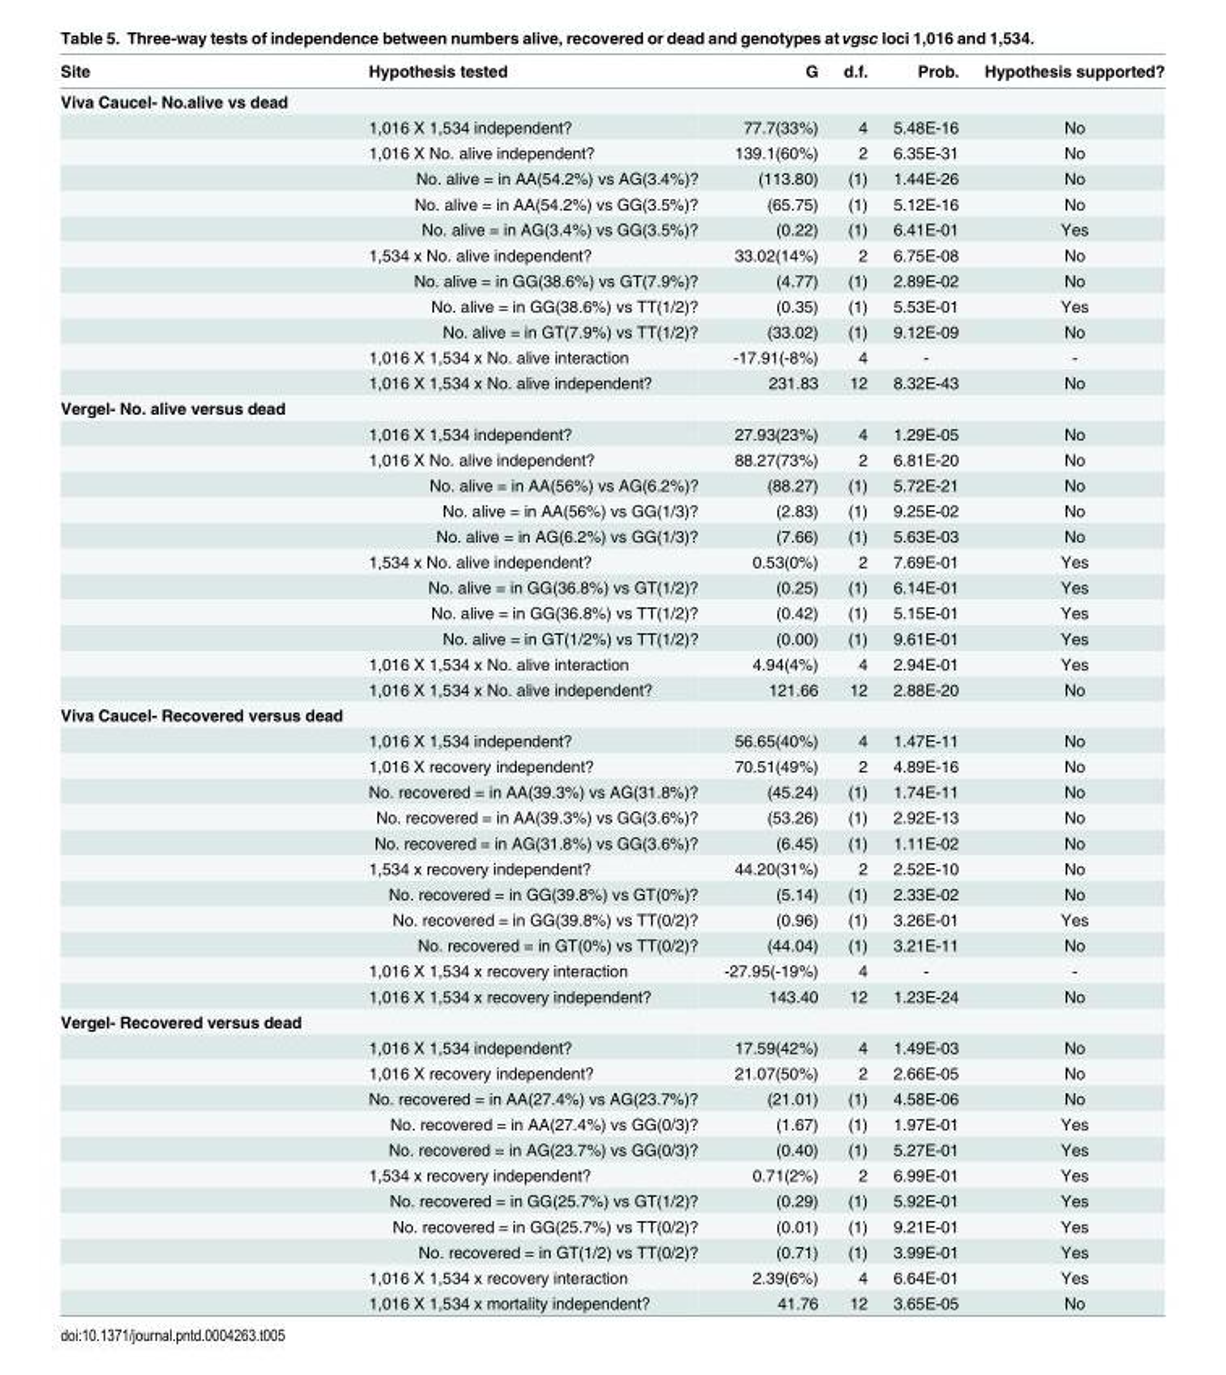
<table><thead><tr><td>Site</td><td>Hypothesis tested</td><td>G</td><td>d.f.</td><td>Prob.</td><td>Hypothesis supported?</td></tr></thead><tbody><tr><td colspan="6">Viva Caucel- No.alive vs dead</td></tr><tr><td></td><td>1,016 X 1,534 independent?</td><td>77.7(33%)</td><td>4</td><td>5.48E-16</td><td>No</td></tr><tr><td></td><td>1,016 X No. alive independent?</td><td>139.1(60%)</td><td>2</td><td>6.35E-31</td><td>No</td></tr><tr><td></td><td>No. alive = in AA(54.2%) vs AG(3.4%)?</td><td>(113.80)</td><td>(1)</td><td>1.44E-26</td><td>No</td></tr><tr><td></td><td>No. alive = in AA(54.2%) vs GG(3.5%)?</td><td>(65.75)</td><td>(1)</td><td>5.12E-16</td><td>No</td></tr><tr><td></td><td>No. alive = in AG(3.4%) vs GG(3.5%)?</td><td>(0.22)</td><td>(1)</td><td>6.41E-01</td><td>Yes</td></tr><tr><td></td><td>1,534 x No. alive independent?</td><td>33.02(14%)</td><td>2</td><td>6.75E-08</td><td>No</td></tr><tr><td></td><td>No. alive = in GG(38.6%) vs GT(7.9%)?</td><td>(4.77)</td><td>(1)</td><td>2.89E-02</td><td>No</td></tr><tr><td></td><td>No. alive = in GG(38.6%) vs TT(1/2)?</td><td>(0.35)</td><td>(1)</td><td>5.53E-01</td><td>Yes</td></tr><tr><td></td><td>No. alive = in GT(7.9%) vs TT(1/2)?</td><td>(33.02)</td><td>(1)</td><td>9.12E-09</td><td>No</td></tr><tr><td></td><td>1,016 X 1,534 x No. alive interaction</td><td>-17.91(-8%)</td><td>4</td><td>-</td><td>-</td></tr><tr><td></td><td>1,016 X 1,534 x No. alive independent?</td><td>231.83</td><td>12</td><td>8.32E-43</td><td>No</td></tr><tr><td colspan="6">Vergel- No. alive versus dead</td></tr><tr><td></td><td>1,016 X 1,534 independent?</td><td>27.93(23%)</td><td>4</td><td>1.29E-05</td><td>No</td></tr><tr><td></td><td>1,016 X No. alive independent?</td><td>88.27(73%)</td><td>2</td><td>6.81E-20</td><td>No</td></tr><tr><td></td><td>No. alive = in AA(56%) vs AG(6.2%)?</td><td>(88.27)</td><td>(1)</td><td>5.72E-21</td><td>No</td></tr><tr><td></td><td>No. alive = in AA(56%) vs GG(1/3)?</td><td>(2.83)</td><td>(1)</td><td>9.25E-02</td><td>No</td></tr><tr><td></td><td>No. alive = in AG(6.2%) vs GG(1/3)?</td><td>(7.66)</td><td>(1)</td><td>5.63E-03</td><td>No</td></tr><tr><td></td><td>1,534 x No. alive independent?</td><td>0.53(0%)</td><td>2</td><td>7.69E-01</td><td>Yes</td></tr><tr><td></td><td>No. alive = in GG(36.8%) vs GT(1/2)?</td><td>(0.25)</td><td>(1)</td><td>6.14E-01</td><td>Yes</td></tr><tr><td></td><td>No. alive = in GG(36.8%) vs TT(1/2)?</td><td>(0.42)</td><td>(1)</td><td>5.15E-01</td><td>Yes</td></tr><tr><td></td><td>No. alive = in GT(1/2%) vs TT(1/2)?</td><td>(0.00)</td><td>(1)</td><td>9.61E-01</td><td>Yes</td></tr><tr><td></td><td>1,016 X 1,534 x No. alive interaction</td><td>4.94(4%)</td><td>4</td><td>2.94E-01</td><td>Yes</td></tr><tr><td></td><td>1,016 X 1,534 x No. alive independent?</td><td>121.66</td><td>12</td><td>2.88E-20</td><td>No</td></tr><tr><td colspan="6">Viva Caucel- Recovered versus dead</td></tr><tr><td></td><td>1,016 X 1,534 independent?</td><td>56.65(40%)</td><td>4</td><td>1.47E-11</td><td>No</td></tr><tr><td></td><td>1,016 X recovery independent?</td><td>70.51(49%)</td><td>2</td><td>4.89E-16</td><td>No</td></tr><tr><td></td><td>No. recovered = in AA(39.3%) vs AG(31.8%)?</td><td>(45.24)</td><td>(1)</td><td>1.74E-11</td><td>No</td></tr><tr><td></td><td>No. recovered = in AA(39.3%) vs GG(3.6%)?</td><td>(53.26)</td><td>(1)</td><td>2.92E-13</td><td>No</td></tr><tr><td></td><td>No. recovered = in AG(31.8%) vs GG(3.6%)?</td><td>(6.45)</td><td>(1)</td><td>1.11E-02</td><td>No</td></tr><tr><td></td><td>1,534 x recovery independent?</td><td>44.20(31%)</td><td>2</td><td>2.52E-10</td><td>No</td></tr><tr><td></td><td>No. recovered = in GG(39.8%) vs GT(0%)?</td><td>(5.14)</td><td>(1)</td><td>2.33E-02</td><td>No</td></tr><tr><td></td><td>No. recovered = in GG(39.8%) vs TT(0/2)?</td><td>(0.96)</td><td>(1)</td><td>3.26E-01</td><td>Yes</td></tr><tr><td></td><td>No. recovered = in GT(0%) vs TT(0/2)?</td><td>(44.04)</td><td>(1)</td><td>3.21E-11</td><td>No</td></tr><tr><td></td><td>1,016 X 1,534 x recovery interaction</td><td>-27.95(-19%)</td><td>4</td><td>-</td><td>-</td></tr><tr><td></td><td>1,016 X 1,534 x recovery independent?</td><td>143.40</td><td>12</td><td>1.23E-24</td><td>No</td></tr><tr><td colspan="6">Vergel- Recovered versus dead</td></tr><tr><td></td><td>1,016 X 1,534 independent?</td><td>17.59(42%)</td><td>4</td><td>1.49E-03</td><td>No</td></tr><tr><td></td><td>1,016 X recovery independent?</td><td>21.07(50%)</td><td>2</td><td>2.66E-05</td><td>No</td></tr><tr><td></td><td>No. recovered = in AA(27.4%) vs AG(23.7%)?</td><td>(21.01)</td><td>(1)</td><td>4.58E-06</td><td>No</td></tr><tr><td></td><td>No. recovered = in AA(27.4%) vs GG(0/3)?</td><td>(1.67)</td><td>(1)</td><td>1.97E-01</td><td>Yes</td></tr><tr><td></td><td>No. recovered = in AG(23.7%) vs GG(0/3)?</td><td>(0.40)</td><td>(1)</td><td>5.27E-01</td><td>Yes</td></tr><tr><td></td><td>1,534 x recovery independent?</td><td>0.71(2%)</td><td>2</td><td>6.99E-01</td><td>Yes</td></tr><tr><td></td><td>No. recovered = in GG(25.7%) vs GT(1/2)?</td><td>(0.29)</td><td>(1)</td><td>5.92E-01</td><td>Yes</td></tr><tr><td></td><td>No. recovered = in GG(25.7%) vs TT(0/2)?</td><td>(0.01)</td><td>(1)</td><td>9.21E-01</td><td>Yes</td></tr><tr><td></td><td>No. recovered = in GT(1/2) vs TT(0/2)?</td><td>(0.71)</td><td>(1)</td><td>3.99E-01</td><td>Yes</td></tr><tr><td></td><td>1,016 X 1,534 x recovery interaction</td><td>2.39(6%)</td><td>4</td><td>6.64E-01</td><td>Yes</td></tr><tr><td></td><td>1,016 X 1,534 x mortality independent?</td><td>41.76</td><td>12</td><td>3.65E-05</td><td>No</td></tr></tbody></table>